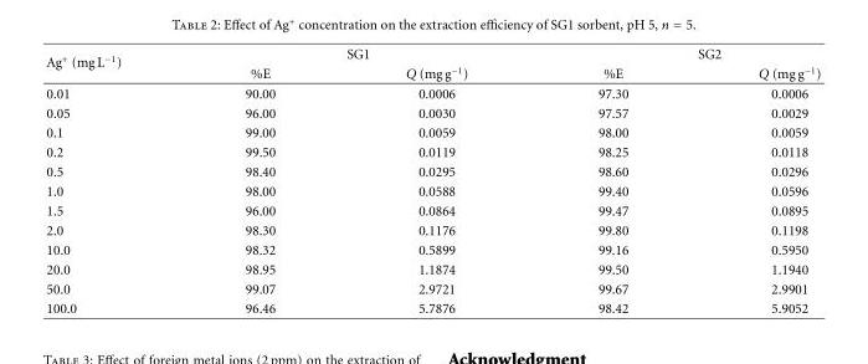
<table><thead><tr><td rowspan="2">Ag<sup>+</sup> (mg L<sup>−1</sup>)</td><td colspan="2">SG1</td><td colspan="2">SG2</td></tr><tr><td>%E</td><td>Q (mg g<sup>−1</sup>)</td><td>%E</td><td>Q (mg g<sup>−1</sup>)</td></tr></thead><tbody><tr><td>0.01</td><td>90.00</td><td>0.0006</td><td>97.30</td><td>0.0006</td></tr><tr><td>0.05</td><td>96.00</td><td>0.0030</td><td>97.57</td><td>0.0029</td></tr><tr><td>0.1</td><td>99.00</td><td>0.0059</td><td>98.00</td><td>0.0059</td></tr><tr><td>0.2</td><td>99.50</td><td>0.0119</td><td>98.25</td><td>0.0118</td></tr><tr><td>0.5</td><td>98.40</td><td>0.0295</td><td>98.60</td><td>0.0296</td></tr><tr><td>1.0</td><td>98.00</td><td>0.0588</td><td>99.40</td><td>0.0596</td></tr><tr><td>1.5</td><td>96.00</td><td>0.0864</td><td>99.47</td><td>0.0895</td></tr><tr><td>2.0</td><td>98.30</td><td>0.1176</td><td>99.80</td><td>0.1198</td></tr><tr><td>10.0</td><td>98.32</td><td>0.5899</td><td>99.16</td><td>0.5950</td></tr><tr><td>20.0</td><td>98.95</td><td>1.1874</td><td>99.50</td><td>1.1940</td></tr><tr><td>50.0</td><td>99.07</td><td>2.9721</td><td>99.67</td><td>2.9901</td></tr><tr><td>100.0</td><td>96.46</td><td>5.7876</td><td>98.42</td><td>5.9052</td></tr></tbody></table>